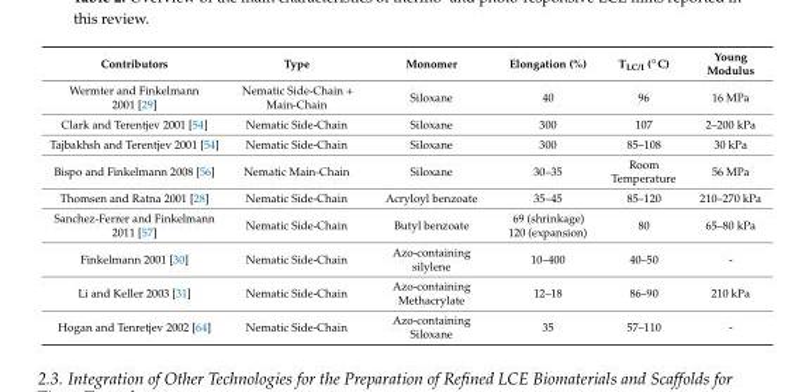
<table><thead><tr><td>Contributors</td><td>Type</td><td>Monomer</td><td>Elongation (%)</td><td>TLC/I (◦C)</td><td>Young Modulus</td></tr></thead><tbody><tr><td>Wermter and Finkelmann 2001 [29]</td><td>Nematic Side-Chain + Main-Chain</td><td>Siloxane</td><td>40</td><td>96</td><td>16 MPa</td></tr><tr><td>Clark and Terentjev 2001 [54]</td><td>Nematic Side-Chain</td><td>Siloxane</td><td>300</td><td>107</td><td>2–200 kPa</td></tr><tr><td>Tajbakhsh and Terentjev 2001 [54]</td><td>Nematic Side-Chain</td><td>Siloxane</td><td>300</td><td>85–108</td><td>30 kPa</td></tr><tr><td>Bispo and Finkelmann 2008 [56]</td><td>Nematic Main-Chain</td><td>Siloxane</td><td>30–35</td><td>Room Temperature</td><td>56 MPa</td></tr><tr><td>Thomsen and Ratna 2001 [28]</td><td>Nematic Side-Chain</td><td>Acryloyl benzoate</td><td>35–45</td><td>85–120</td><td>210–270 kPa</td></tr><tr><td>Sanchez-Ferrer and Finkelmann 2011 [57]</td><td>Nematic Side-Chain</td><td>Butyl benzoate</td><td>69 (shrinkage) 120 (expansion)</td><td>80</td><td>65–80 kPa</td></tr><tr><td>Finkelmann 2001 [30]</td><td>Nematic Side-Chain</td><td>Azo-containing silylene</td><td>10–400</td><td>40–50</td><td>-</td></tr><tr><td>Li and Keller 2003 [31]</td><td>Nematic Side-Chain</td><td>Azo-containing Methacrylate</td><td>12–18</td><td>86–90</td><td>210 kPa</td></tr><tr><td>Hogan and Tenretjev 2002 [64]</td><td>Nematic Side-Chain</td><td>Azo-containing Siloxane</td><td>35</td><td>57–110</td><td>-</td></tr></tbody></table>